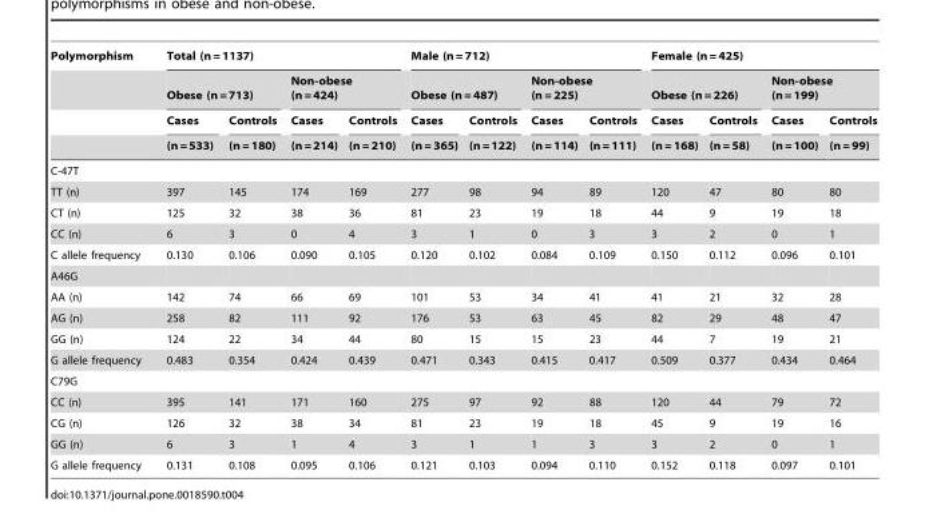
<table><thead><tr><td rowspan="4">Polymorphism</td><td colspan="4">Total (n = 1137)</td><td colspan="4">Male (n = 712)</td><td colspan="4">Female (n = 425)</td></tr><tr><td colspan="2">Obese (n = 713)</td><td colspan="2">Non-obese (n = 424)</td><td colspan="2">Obese (n = 487)</td><td colspan="2">Non-obese (n = 225)</td><td colspan="2">Obese (n = 226)</td><td colspan="2">Non-obese (n = 199)</td></tr><tr><td rowspan="2">Cases (n = 533)</td><td rowspan="2">Controls (n = 180)</td><td rowspan="2">Cases (n = 214)</td><td rowspan="2">Controls (n = 210)</td><td rowspan="2">Cases (n = 365)</td><td rowspan="2">Controls (n = 122)</td><td rowspan="2">Cases (n = 114)</td><td rowspan="2">Controls (n = 111)</td><td rowspan="2">Cases (n = 168)</td><td rowspan="2">Controls (n = 58)</td><td rowspan="2">Cases (n = 100)</td><td rowspan="2">Controls (n = 99)</td></tr><tr></tr></thead><tbody><tr><td colspan="13">C-47T</td></tr><tr><td>TT (n)</td><td>397</td><td>145</td><td>174</td><td>169</td><td>277</td><td>98</td><td>94</td><td>89</td><td>120</td><td>47</td><td>80</td><td>80</td></tr><tr><td>CT (n)</td><td>125</td><td>32</td><td>38</td><td>36</td><td>81</td><td>23</td><td>19</td><td>18</td><td>44</td><td>9</td><td>19</td><td>18</td></tr><tr><td>CC (n)</td><td>6</td><td>3</td><td>0</td><td>4</td><td>3</td><td>1</td><td>0</td><td>3</td><td>3</td><td>2</td><td>0</td><td>1</td></tr><tr><td>C allele frequency</td><td>0.130</td><td>0.106</td><td>0.090</td><td>0.105</td><td>0.120</td><td>0.102</td><td>0.084</td><td>0.109</td><td>0.150</td><td>0.112</td><td>0.096</td><td>0.101</td></tr><tr><td colspan="13">A46G</td></tr><tr><td>AA (n)</td><td>142</td><td>74</td><td>66</td><td>69</td><td>101</td><td>53</td><td>34</td><td>41</td><td>41</td><td>21</td><td>32</td><td>28</td></tr><tr><td>AG (n)</td><td>258</td><td>82</td><td>111</td><td>92</td><td>176</td><td>53</td><td>63</td><td>45</td><td>82</td><td>29</td><td>48</td><td>47</td></tr><tr><td>GG (n)</td><td>124</td><td>22</td><td>34</td><td>44</td><td>80</td><td>15</td><td>15</td><td>23</td><td>44</td><td>7</td><td>19</td><td>21</td></tr><tr><td>G allele frequency</td><td>0.483</td><td>0.354</td><td>0.424</td><td>0.439</td><td>0.471</td><td>0.343</td><td>0.415</td><td>0.417</td><td>0.509</td><td>0.377</td><td>0.434</td><td>0.464</td></tr><tr><td colspan="13">C79G</td></tr><tr><td>CC (n)</td><td>395</td><td>141</td><td>171</td><td>160</td><td>275</td><td>97</td><td>92</td><td>88</td><td>120</td><td>44</td><td>79</td><td>72</td></tr><tr><td>CG (n)</td><td>126</td><td>32</td><td>38</td><td>34</td><td>81</td><td>23</td><td>19</td><td>18</td><td>45</td><td>9</td><td>19</td><td>16</td></tr><tr><td>GG (n)</td><td>6</td><td>3</td><td>1</td><td>4</td><td>3</td><td>1</td><td>1</td><td>3</td><td>3</td><td>2</td><td>0</td><td>1</td></tr><tr><td>G allele frequency</td><td>0.131</td><td>0.108</td><td>0.095</td><td>0.106</td><td>0.121</td><td>0.103</td><td>0.094</td><td>0.110</td><td>0.152</td><td>0.118</td><td>0.097</td><td>0.101</td></tr></tbody></table>